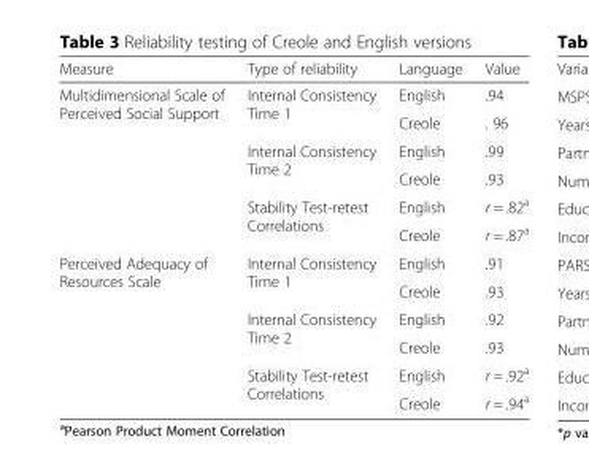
<table><thead><tr><td>Measure</td><td>Type of reliability</td><td>Language</td><td>Value</td></tr></thead><tbody><tr><td rowspan="6">Multidimensional Scale of Perceived Social Support</td><td rowspan="2">Internal Consistency Time 1</td><td>English</td><td>.94</td></tr><tr><td>Creole</td><td>. 96</td></tr><tr><td rowspan="2">Internal Consistency Time 2</td><td>English</td><td>.99</td></tr><tr><td>Creole</td><td>.93</td></tr><tr><td rowspan="2">Stability Test-retest Correlations</td><td>English</td><td>r = .82<sup>a</sup></td></tr><tr><td>Creole</td><td>r = .87<sup>a</sup></td></tr><tr><td rowspan="6">Perceived Adequacy of Resources Scale</td><td rowspan="2">Internal Consistency Time 1</td><td>English</td><td>.91</td></tr><tr><td>Creole</td><td>.93</td></tr><tr><td rowspan="2">Internal Consistency Time 2</td><td>English</td><td>.92</td></tr><tr><td>Creole</td><td>.93</td></tr><tr><td rowspan="2">Stability Test-retest Correlations</td><td>English</td><td>r = .92<sup>a</sup></td></tr><tr><td>Creole</td><td>r = .94<sup>a</sup></td></tr></tbody></table>